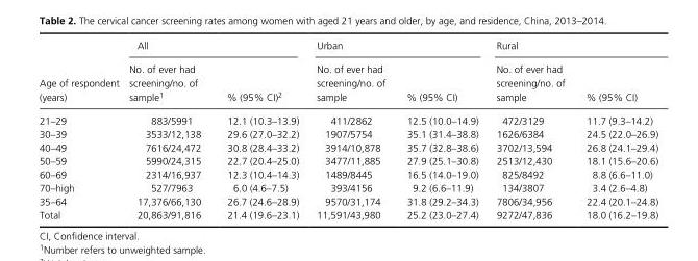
<table><thead><tr><td rowspan="2">Age of respondent (years)</td><td colspan="2">All</td><td colspan="2">Urban</td><td colspan="2">Rural</td></tr><tr><td>No. of ever had screening/no. of sample1</td><td>% (95% CI)2</td><td>No. of ever had screening/no. of sample</td><td>% (95% CI)</td><td>No. of ever had screening/no. of sample</td><td>% (95% CI)</td></tr></thead><tbody><tr><td>21–29</td><td>883/5991</td><td>12.1 (10.3–13.9)</td><td>411/2862</td><td>12.5 (10.0–14.9)</td><td>472/3129</td><td>11.7 (9.3–14.2)</td></tr><tr><td>30–39</td><td>3533/12,138</td><td>29.6 (27.0–32.2)</td><td>1907/5754</td><td>35.1 (31.4–38.8)</td><td>1626/6384</td><td>24.5 (22.0–26.9)</td></tr><tr><td>40–49</td><td>7616/24,472</td><td>30.8 (28.4–33.2)</td><td>3914/10,878</td><td>35.7 (32.8–38.6)</td><td>3702/13,594</td><td>26.8 (24.1–29.4)</td></tr><tr><td>50–59</td><td>5990/24,315</td><td>22.7 (20.4–25.0)</td><td>3477/11,885</td><td>27.9 (25.1–30.8)</td><td>2513/12,430</td><td>18.1 (15.6–20.6)</td></tr><tr><td>60–69</td><td>2314/16,937</td><td>12.3 (10.4–14.3)</td><td>1489/8445</td><td>16.5 (14.0–19.0)</td><td>825/8492</td><td>8.8 (6.6–11.0)</td></tr><tr><td>70–high</td><td>527/7963</td><td>6.0 (4.6–7.5)</td><td>393/4156</td><td>9.2 (6.6–11.9)</td><td>134/3807</td><td>3.4 (2.6–4.8)</td></tr><tr><td>35–64</td><td>17,376/66,130</td><td>26.7 (24.6–28.9)</td><td>9570/31,174</td><td>31.8 (29.2–34.3)</td><td>7806/34,956</td><td>22.4 (20.1–24.8)</td></tr><tr><td>Total</td><td>20,863/91,816</td><td>21.4 (19.6–23.1)</td><td>11,591/43,980</td><td>25.2 (23.0–27.4)</td><td>9272/47,836</td><td>18.0 (16.2–19.8)</td></tr></tbody></table>